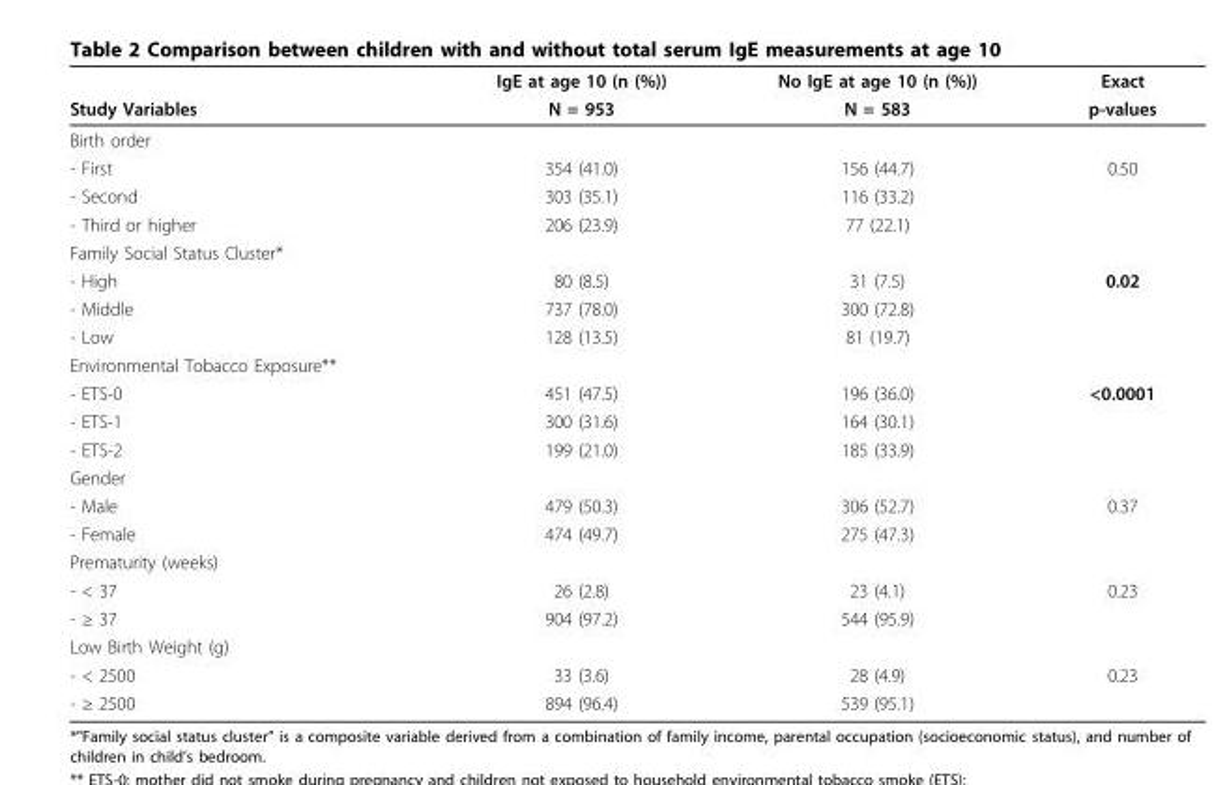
<table><thead><tr><td rowspan="2">Study Variables</td><td rowspan="2">IgE at age 10 (n (%)) N = 953</td><td rowspan="2">No IgE at age 10 (n (%)) N = 583</td><td rowspan="2">Exact p-values</td></tr><tr></tr></thead><tbody><tr><td colspan="4">Birth order</td></tr><tr><td>- First</td><td>354 (41.0)</td><td>156 (44.7)</td><td>0.50</td></tr><tr><td>- Second</td><td>303 (35.1)</td><td>116 (33.2)</td><td></td></tr><tr><td>- Third or higher</td><td>206 (23.9)</td><td>77 (22.1)</td><td></td></tr><tr><td colspan="4">Family Social Status Cluster*</td></tr><tr><td>- High</td><td>80 (8.5)</td><td>31 (7.5)</td><td>0.02</td></tr><tr><td>- Middle</td><td>737 (78.0)</td><td>300 (72.8)</td><td></td></tr><tr><td>- Low</td><td>128 (13.5)</td><td>81 (19.7)</td><td></td></tr><tr><td colspan="4">Environmental Tobacco Exposure**</td></tr><tr><td>- ETS-0</td><td>451 (47.5)</td><td>196 (36.0)</td><td>&lt;0.0001</td></tr><tr><td>- ETS-1</td><td>300 (31.6)</td><td>164 (30.1)</td><td></td></tr><tr><td>- ETS-2</td><td>199 (21.0)</td><td>185 (33.9)</td><td></td></tr><tr><td colspan="4">Gender</td></tr><tr><td>- Male</td><td>479 (50.3)</td><td>306 (52.7)</td><td>0.37</td></tr><tr><td>- Female</td><td>474 (49.7)</td><td>275 (47.3)</td><td></td></tr><tr><td colspan="4">Prematurity (weeks)</td></tr><tr><td>- &lt; 37</td><td>26 (2.8)</td><td>23 (4.1)</td><td>0.23</td></tr><tr><td>- ≥ 37</td><td>904 (97.2)</td><td>544 (95.9)</td><td></td></tr><tr><td colspan="4">Low Birth Weight (g)</td></tr><tr><td>- &lt; 2500</td><td>33 (3.6)</td><td>28 (4.9)</td><td>0.23</td></tr><tr><td>- ≥ 2500</td><td>894 (96.4)</td><td>539 (95.1)</td><td></td></tr></tbody></table>